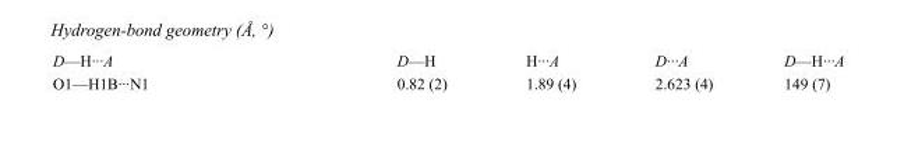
<table><tbody><tr><td>D—H···A</td><td>D—H</td><td>H···A</td><td>D···A</td><td>D—H···A</td></tr><tr><td>O1—H1B···N1</td><td>0.82 (2)</td><td>1.89 (4)</td><td>2.623 (4)</td><td>149 (7)</td></tr></tbody></table>